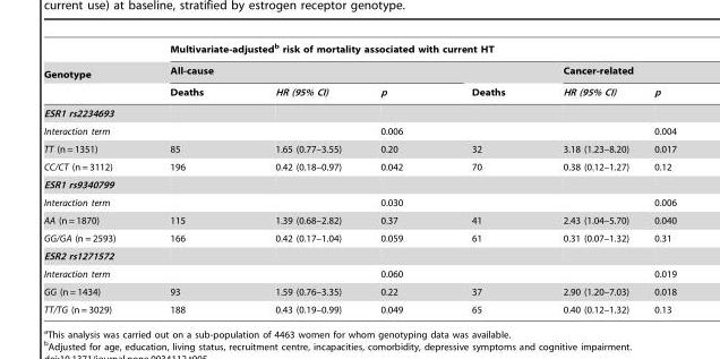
<table><thead><tr><td rowspan="3">Genotype</td><td colspan="6">Multivariate-adjusted<sup>b</sup> risk of mortality associated with current HT</td></tr><tr><td colspan="3">All-cause</td><td rowspan="2">Deaths</td><td colspan="2">Cancer-related</td></tr><tr><td>Deaths</td><td>HR (95% CI)</td><td>p</td><td>HR (95% CI)</td><td>p</td></tr></thead><tbody><tr><td colspan="7">ESR1 rs2234693</td></tr><tr><td>Interaction term</td><td></td><td></td><td>0.006</td><td></td><td></td><td>0.004</td></tr><tr><td>TT (n = 1351)</td><td>85</td><td>1.65 (0.77–3.55)</td><td>0.20</td><td>32</td><td>3.18 (1.23–8.20)</td><td>0.017</td></tr><tr><td>CC/CT (n = 3112)</td><td>196</td><td>0.42 (0.18–0.97)</td><td>0.042</td><td>70</td><td>0.38 (0.12–1.27)</td><td>0.12</td></tr><tr><td colspan="7">ESR1 rs9340799</td></tr><tr><td>Interaction term</td><td></td><td></td><td>0.030</td><td></td><td></td><td>0.006</td></tr><tr><td>AA (n = 1870)</td><td>115</td><td>1.39 (0.68–2.82)</td><td>0.37</td><td>41</td><td>2.43 (1.04–5.70)</td><td>0.040</td></tr><tr><td>GG/GA (n = 2593)</td><td>166</td><td>0.42 (0.17–1.04)</td><td>0.059</td><td>61</td><td>0.31 (0.07–1.32)</td><td>0.31</td></tr><tr><td colspan="7">ESR2 rs1271572</td></tr><tr><td>Interaction term</td><td></td><td></td><td>0.060</td><td></td><td></td><td>0.019</td></tr><tr><td>GG (n = 1434)</td><td>93</td><td>1.59 (0.76–3.35)</td><td>0.22</td><td>37</td><td>2.90 (1.20–7.03)</td><td>0.018</td></tr><tr><td>TT/TG (n = 3029)</td><td>188</td><td>0.43 (0.19–0.99)</td><td>0.049</td><td>65</td><td>0.40 (0.12–1.32)</td><td>0.13</td></tr></tbody></table>